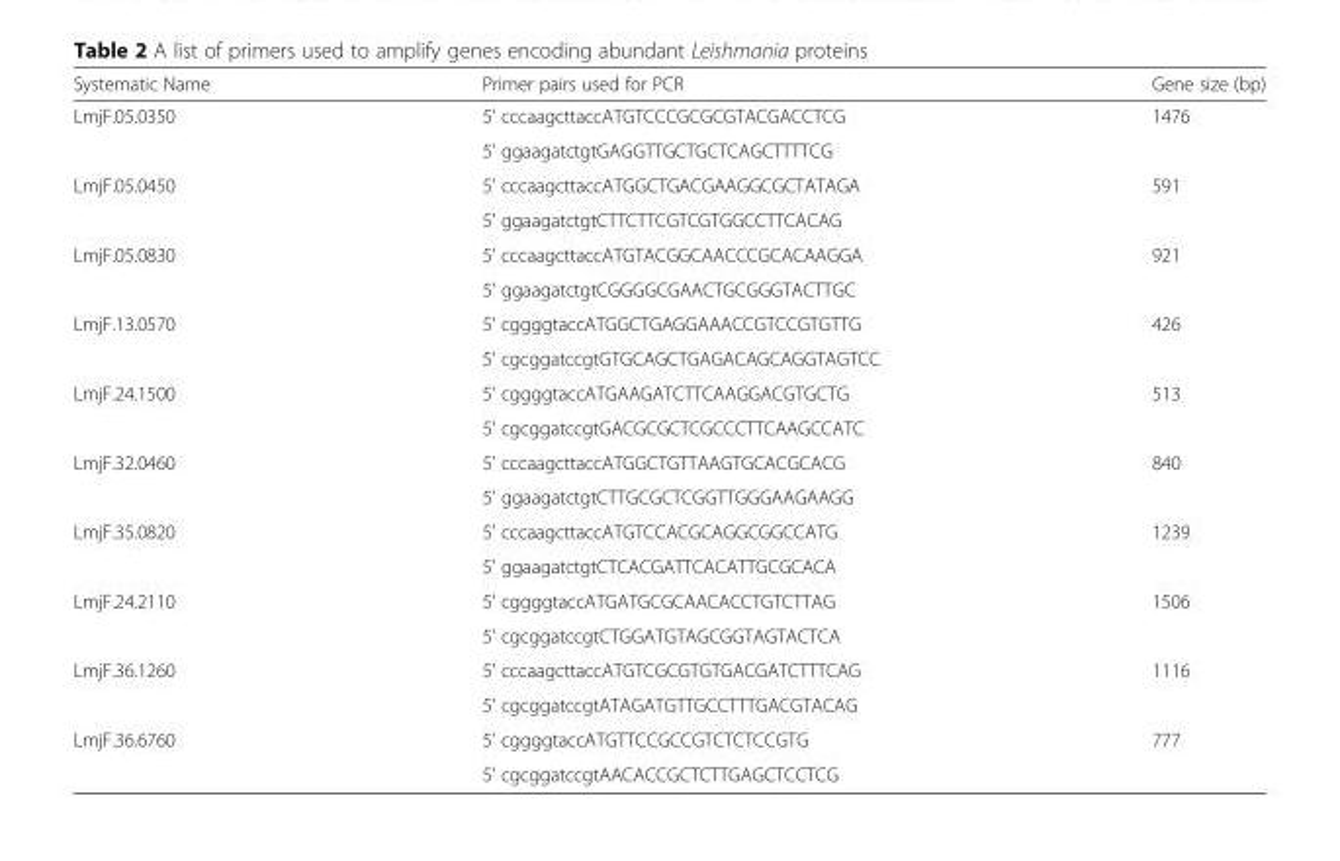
<table><thead><tr><td>Systematic Name</td><td>Primer pairs used for PCR</td><td>Gene size (bp)</td></tr></thead><tbody><tr><td rowspan="2">LmjF.05.0350</td><td>5’ cccaagcttaccATGTCCCGCGCGTACGACCTCG</td><td rowspan="2">1476</td></tr><tr><td>5’ ggaagatctgtGAGGTTGCTGCTCAGCTTTTCG</td></tr><tr><td rowspan="2">LmjF.05.0450</td><td>5’ cccaagcttaccATGGCTGACGAAGGCGCTATAGA</td><td rowspan="2">591</td></tr><tr><td>5’ ggaagatctgtCTTCTTCGTCGTGGCCTTCACAG</td></tr><tr><td rowspan="2">LmjF.05.0830</td><td>5’ cccaagcttaccATGTACGGCAACCCGCACAAGGA</td><td rowspan="2">921</td></tr><tr><td>5’ ggaagatctgtCGGGGCGAACTGCGGGTACTTGC</td></tr><tr><td rowspan="2">LmjF.13.0570</td><td>5’ cggggtaccATGGCTGAGGAAACCGTCCGTGTTG</td><td rowspan="2">426</td></tr><tr><td>5’ cgcggatccgtGTGCAGCTGAGACAGCAGGTAGTCC</td></tr><tr><td rowspan="2">LmjF.24.1500</td><td>5’ cggggtaccATGAAGATCTTCAAGGACGTGCTG</td><td rowspan="2">513</td></tr><tr><td>5’ cgcggatccgtGACGCGCTCGCCCTTCAAGCCATC</td></tr><tr><td rowspan="2">LmjF.32.0460</td><td>5’ cccaagcttaccATGGCTGTTAAGTGCACGCACG</td><td rowspan="2">840</td></tr><tr><td>5’ ggaagatctgtCTTGCGCTCGGTTGGGAAGAAGG</td></tr><tr><td rowspan="2">LmjF.35.0820</td><td>5’ cccaagcttaccATGTCCACGCAGGCGGCCATG</td><td rowspan="2">1239</td></tr><tr><td>5’ ggaagatctgtCTCACGATTCACATTGCGCACA</td></tr><tr><td rowspan="2">LmjF.24.2110</td><td>5’ cggggtaccATGATGCGCAACACCTGTCTTAG</td><td rowspan="2">1506</td></tr><tr><td>5’ cgcggatccgtCTGGATGTAGCGGTAGTACTCA</td></tr><tr><td rowspan="2">LmjF.36.1260</td><td>5’ cccaagcttaccATGTCGCGTGTGACGATCTTTCAG</td><td rowspan="2">1116</td></tr><tr><td>5’ cgcggatccgtATAGATGTTGCCTTTGACGTACAG</td></tr><tr><td rowspan="2">LmjF.36.6760</td><td>5’ cggggtaccATGTTCCGCCGTCTCTCCGTG</td><td rowspan="2">777</td></tr><tr><td>5’ cgcggatccgtAACACCGCTCTTGAGCTCCTCG</td></tr></tbody></table>